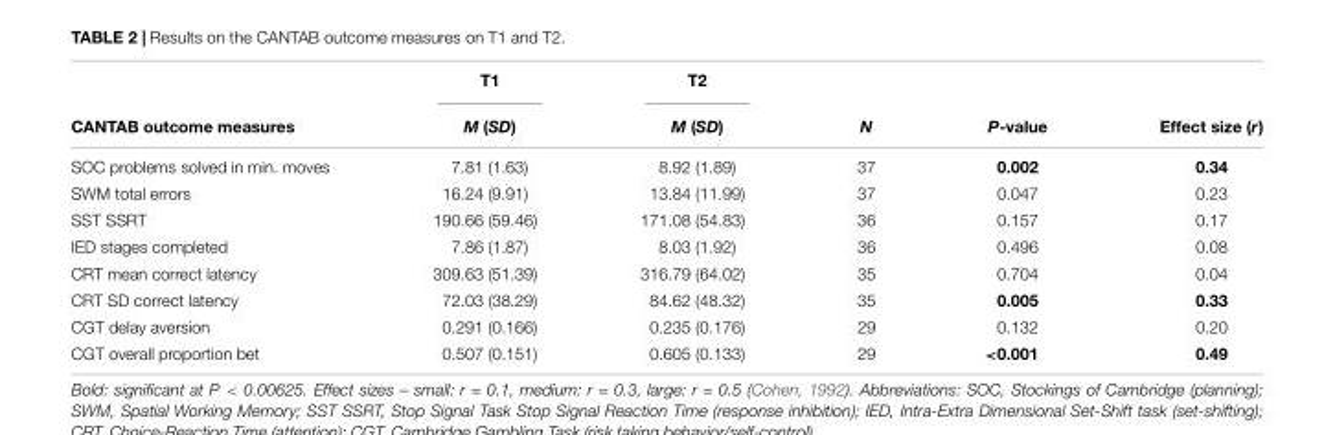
<table><thead><tr><td rowspan="2">CANTAB outcome measures</td><td rowspan="2">T1 M (SD)</td><td rowspan="2">T2 M (SD)</td><td rowspan="2">N</td><td rowspan="2">P-value</td><td rowspan="2">Effect size (r)</td></tr><tr></tr></thead><tbody><tr><td>SOC problems solved in min. moves</td><td>7.81 (1.63)</td><td>8.92 (1.89)</td><td>37</td><td>0.002</td><td>0.34</td></tr><tr><td>SWM total errors</td><td>16.24 (9.91)</td><td>13.84 (11.99)</td><td>37</td><td>0.047</td><td>0.23</td></tr><tr><td>SST SSRT</td><td>190.66 (59.46)</td><td>171.08 (54.83)</td><td>36</td><td>0.157</td><td>0.17</td></tr><tr><td>IED stages completed</td><td>7.86 (1.87)</td><td>8.03 (1.92)</td><td>36</td><td>0.496</td><td>0.08</td></tr><tr><td>CRT mean correct latency</td><td>309.63 (51.39)</td><td>316.79 (64.02)</td><td>35</td><td>0.704</td><td>0.04</td></tr><tr><td>CRT SD correct latency</td><td>72.03 (38.29)</td><td>84.62 (48.32)</td><td>35</td><td>0.005</td><td>0.33</td></tr><tr><td>CGT delay aversion</td><td>0.291 (0.166)</td><td>0.235 (0.176)</td><td>29</td><td>0.132</td><td>0.20</td></tr><tr><td>CGT overall proportion bet</td><td>0.507 (0.151)</td><td>0.605 (0.133)</td><td>29</td><td>&lt;0.001</td><td>0.49</td></tr></tbody></table>